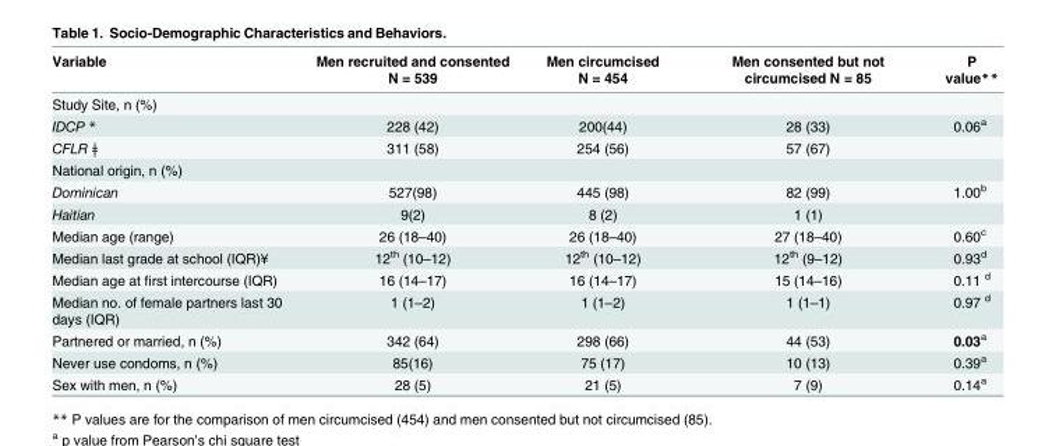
<table><thead><tr><td>Variable</td><td>Men recruited and consented N = 539</td><td>Men circumcised N = 454</td><td>Men consented but not circumcised N = 85</td><td>P value**</td></tr></thead><tbody><tr><td colspan="5">Study Site, n (%)</td></tr><tr><td>IDCP *</td><td>228 (42)</td><td>200(44)</td><td>28 (33)</td><td>0.06<sup>a</sup></td></tr><tr><td>CFLR ǂ</td><td>311 (58)</td><td>254 (56)</td><td>57 (67)</td><td></td></tr><tr><td colspan="5">National origin, n (%)</td></tr><tr><td>Dominican</td><td>527(98)</td><td>445 (98)</td><td>82 (99)</td><td>1.00<sup>b</sup></td></tr><tr><td>Haitian</td><td>9(2)</td><td>8 (2)</td><td>1 (1)</td><td></td></tr><tr><td>Median age (range)</td><td>26 (18–40)</td><td>26 (18–40)</td><td>27 (18–40)</td><td>0.60<sup>c</sup></td></tr><tr><td>Median last grade at school (IQR)¥</td><td>12<sup>th</sup> (10–12)</td><td>12<sup>th</sup> (10–12)</td><td>12<sup>th</sup> (9–12)</td><td>0.93<sup>d</sup></td></tr><tr><td>Median age at first intercourse (IQR)</td><td>16 (14–17)</td><td>16 (14–17)</td><td>15 (14–16)</td><td>0.11 <sup>d</sup></td></tr><tr><td>Median no. of female partners last 30 days (IQR)</td><td>1 (1–2)</td><td>1 (1–2)</td><td>1 (1–1)</td><td>0.97 <sup>d</sup></td></tr><tr><td>Partnered or married, n (%)</td><td>342 (64)</td><td>298 (66)</td><td>44 (53)</td><td>0.03<sup>a</sup></td></tr><tr><td>Never use condoms, n (%)</td><td>85(16)</td><td>75 (17)</td><td>10 (13)</td><td>0.39<sup>a</sup></td></tr><tr><td>Sex with men, n (%)</td><td>28 (5)</td><td>21 (5)</td><td>7 (9)</td><td>0.14<sup>a</sup></td></tr></tbody></table>